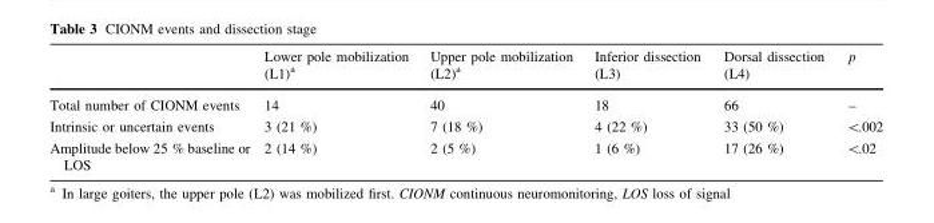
<table><thead><tr><td></td><td>Lower pole mobilization (L1)<sup>a</sup></td><td>Upper pole mobilization (L2)<sup>a</sup></td><td>Inferior dissection (L3)</td><td>Dorsal dissection (L4)</td><td>p</td></tr></thead><tbody><tr><td>Total number of CIONM events</td><td>14</td><td>40</td><td>18</td><td>66</td><td>–</td></tr><tr><td>Intrinsic or uncertain events</td><td>3 (21 %)</td><td>7 (18 %)</td><td>4 (22 %)</td><td>33 (50 %)</td><td>&lt;.002</td></tr><tr><td>Amplitude below 25 % baseline or LOS</td><td>2 (14 %)</td><td>2 (5 %)</td><td>1 (6 %)</td><td>17 (26 %)</td><td>&lt;.02</td></tr></tbody></table>